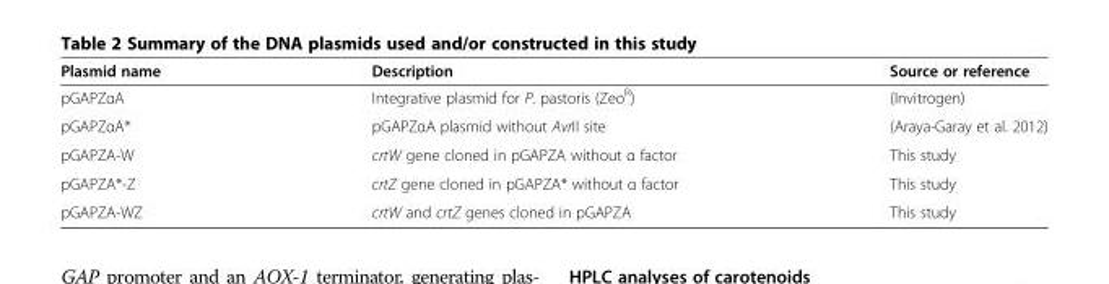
<table><thead><tr><td>Plasmid name</td><td>Description</td><td>Source or reference</td></tr></thead><tbody><tr><td>pGAPZαA</td><td>Integrative plasmid for P. pastoris (Zeo<sup>R</sup>)</td><td>(Invitrogen)</td></tr><tr><td>pGAPZαA*</td><td>pGAPZαA plasmid without AvrII site</td><td>(Araya-Garay et al. 2012)</td></tr><tr><td>pGAPZA-W</td><td>crtW gene cloned in pGAPZA without α factor</td><td>This study</td></tr><tr><td>pGAPZA*-Z</td><td>crtZ gene cloned in pGAPZA* without α factor</td><td>This study</td></tr><tr><td>pGAPZA-WZ</td><td>crtW and crtZ genes cloned in pGAPZA</td><td>This study</td></tr></tbody></table>